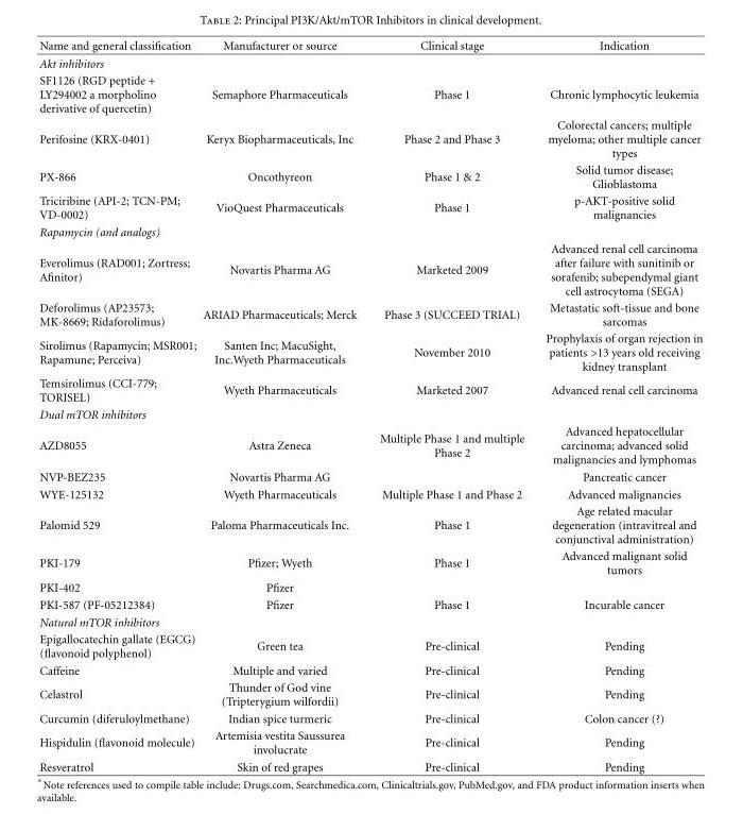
<table><thead><tr><td>Name and general classification</td><td>Manufacturer or source</td><td>Clinical stage</td><td>Indication</td></tr></thead><tbody><tr><td colspan="4">Akt inhibitors</td></tr><tr><td>SF1126 (RGD peptide + LY294002 a morpholino derivative of quercetin)</td><td>Semaphore Pharmaceuticals</td><td>Phase 1</td><td>Chronic lymphocytic leukemia</td></tr><tr><td>Perifosine (KRX-0401)</td><td>Keryx Biopharmaceuticals, Inc</td><td>Phase 2 and Phase 3</td><td>Colorectal cancers; multiple myeloma; other multiple cancer types</td></tr><tr><td>PX-866</td><td>Oncothyreon</td><td>Phase 1 &amp; 2</td><td>Solid tumor disease; Glioblastoma</td></tr><tr><td>Triciribine (API-2; TCN-PM; VD-0002)</td><td>VioQuest Pharmaceuticals</td><td>Phase 1</td><td>p-AKT-positive solid malignancies</td></tr><tr><td colspan="4">Rapamycin (and analogs)</td></tr><tr><td>Everolimus (RAD001; Zortress; Afinitor)</td><td>Novartis Pharma AG</td><td>Marketed 2009</td><td>Advanced renal cell carcinoma after failure with sunitinib or sorafenib; subependymal giant cell astrocytoma (SEGA)</td></tr><tr><td>Deforolimus (AP23573; MK-8669; Ridaforolimus)</td><td>ARIAD Pharmaceuticals; Merck</td><td>Phase 3 (SUCCEED TRIAL)</td><td>Metastatic soft-tissue and bone sarcomas</td></tr><tr><td>Sirolimus (Rapamycin; MSR001; Rapamune; Perceiva)</td><td>Santen Inc; MacuSight, Inc.Wyeth Pharmaceuticals</td><td>November 2010</td><td>Prophylaxis of organ rejection in patients &gt;13 years old receiving kidney transplant</td></tr><tr><td>Temsirolimus (CCI-779; TORISEL)</td><td>Wyeth Pharmaceuticals</td><td>Marketed 2007</td><td>Advanced renal cell carcinoma</td></tr><tr><td colspan="4">Dual mTOR inhibitors</td></tr><tr><td>AZD8055</td><td>Astra Zeneca</td><td>Multiple Phase 1 and multiple Phase 2</td><td>Advanced hepatocellular carcinoma; advanced solid malignancies and lymphomas</td></tr><tr><td>NVP-BEZ235</td><td>Novartis Pharma AG</td><td></td><td>Pancreatic cancer</td></tr><tr><td>WYE-125132</td><td>Wyeth Pharmaceuticals</td><td>Multiple Phase 1 and Phase 2</td><td>Advanced malignancies</td></tr><tr><td>Palomid 529</td><td>Paloma Pharmaceuticals Inc.</td><td>Phase 1</td><td>Age related macular degeneration (intravitreal and conjunctival administration)</td></tr><tr><td>PKI-179</td><td>Pfizer; Wyeth</td><td>Phase 1</td><td>Advanced malignant solid tumors</td></tr><tr><td>PKI-402</td><td>Pfizer</td><td></td><td></td></tr><tr><td>PKI-587 (PF-05212384)</td><td>Pfizer</td><td>Phase 1</td><td>Incurable cancer</td></tr><tr><td colspan="4">Natural mTOR inhibitors</td></tr><tr><td>Epigallocatechin gallate (EGCG) (flavonoid polyphenol)</td><td>Green tea</td><td>Pre-clinical</td><td>Pending</td></tr><tr><td>Caffeine</td><td>Multiple and varied</td><td>Pre-clinical</td><td>Pending</td></tr><tr><td>Celastrol</td><td>Thunder of God vine (Tripterygium wilfordii)</td><td>Pre-clinical</td><td>Pending</td></tr><tr><td>Curcumin (diferuloylmethane)</td><td>Indian spice turmeric</td><td>Pre-clinical</td><td>Colon cancer (?)</td></tr><tr><td>Hispidulin (flavonoid molecule)</td><td>Artemisia vestita Saussurea involucrate</td><td>Pre-clinical</td><td>Pending</td></tr><tr><td>Resveratrol</td><td>Skin of red grapes</td><td>Pre-clinical</td><td>Pending</td></tr></tbody></table>